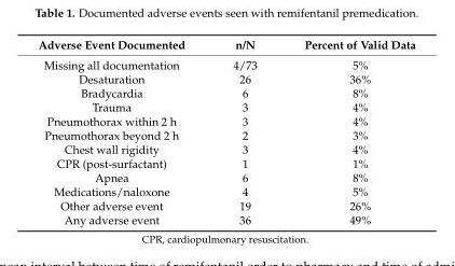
<table><thead><tr><td>Adverse Event Documented</td><td>n/N</td><td>Percent of Valid Data</td></tr></thead><tbody><tr><td>Missing all documentation</td><td>4/73</td><td>5%</td></tr><tr><td>Desaturation</td><td>26</td><td>36%</td></tr><tr><td>Bradycardia</td><td>6</td><td>8%</td></tr><tr><td>Trauma</td><td>3</td><td>4%</td></tr><tr><td>Pneumothorax within 2 h</td><td>3</td><td>4%</td></tr><tr><td>Pneumothorax beyond 2 h</td><td>2</td><td>3%</td></tr><tr><td>Chest wall rigidity</td><td>3</td><td>4%</td></tr><tr><td>CPR (post-surfactant)</td><td>1</td><td>1%</td></tr><tr><td>Apnea</td><td>6</td><td>8%</td></tr><tr><td>Medications/naloxone</td><td>4</td><td>5%</td></tr><tr><td>Other adverse event</td><td>19</td><td>26%</td></tr><tr><td>Any adverse event</td><td>36</td><td>49%</td></tr></tbody></table>